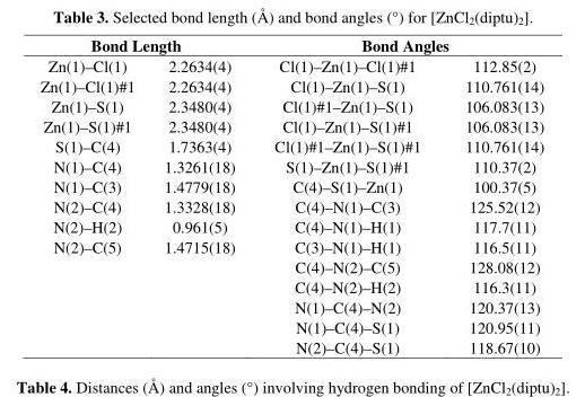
<table><thead><tr><td colspan="2">Bond Length</td><td colspan="2">Bond Angles</td></tr><tr><td>Zn(1)–Cl(1)</td><td>2.2634(4)</td><td>Cl(1)–Zn(1)–Cl(1)#1</td><td>112.85(2)</td></tr></thead><tbody><tr><td>Zn(1)–Cl(1)#1</td><td>2.2634(4)</td><td>Cl(1)–Zn(1)–S(1)</td><td>110.761(14)</td></tr><tr><td>Zn(1)–S(1)</td><td>2.3480(4)</td><td>Cl(1)#1–Zn(1)–S(1)</td><td>106.083(13)</td></tr><tr><td>Zn(1)–S(1)#1</td><td>2.3480(4)</td><td>Cl(1)–Zn(1)–S(1)#1</td><td>106.083(13)</td></tr><tr><td>S(1)–C(4)</td><td>1.7363(4)</td><td>Cl(1)#1–Zn(1)–S(1)#1</td><td>110.761(14)</td></tr><tr><td>N(1)–C(4)</td><td>1.3261(18)</td><td>S(1)–Zn(1)–S(1)#1</td><td>110.37(2)</td></tr><tr><td>N(1)–C(3)</td><td>1.4779(18)</td><td>C(4)–S(1)–Zn(1)</td><td>100.37(5)</td></tr><tr><td>N(2)–C(4)</td><td>1.3328(18)</td><td>C(4)–N(1)–C(3)</td><td>125.52(12)</td></tr><tr><td>N(2)–H(2)</td><td>0.961(5)</td><td>C(4)–N(1)–H(1)</td><td>117.7(11)</td></tr><tr><td rowspan="6">N(2)–C(5)</td><td>1.4715(18)</td><td>C(3)–N(1)–H(1)</td><td>116.5(11)</td></tr><tr><td></td><td>C(4)–N(2)–C(5)</td><td>128.08(12)</td></tr><tr><td></td><td>C(4)–N(2)–H(2)</td><td>116.3(11)</td></tr><tr><td></td><td>N(1)–C(4)–N(2)</td><td>120.37(13)</td></tr><tr><td></td><td>N(1)–C(4)–S(1)</td><td>120.95(11)</td></tr><tr><td></td><td>N(2)–C(4)–S(1)</td><td>118.67(10)</td></tr></tbody></table>